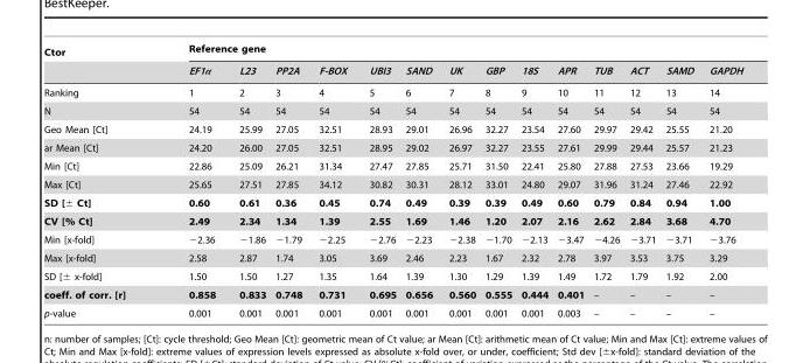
<table><thead><tr><td rowspan="2">Ctor</td><td colspan="14">Reference gene</td></tr><tr><td>EF1α</td><td>L23</td><td>PP2A</td><td>F-BOX</td><td>UBI3</td><td>SAND</td><td>UK</td><td>GBP</td><td>18S</td><td>APR</td><td>TUB</td><td>ACT</td><td>SAMD</td><td>GAPDH</td></tr></thead><tbody><tr><td>Ranking</td><td>1</td><td>2</td><td>3</td><td>4</td><td>5</td><td>6</td><td>7</td><td>8</td><td>9</td><td>10</td><td>11</td><td>12</td><td>13</td><td>14</td></tr><tr><td>N</td><td>54</td><td>54</td><td>54</td><td>54</td><td>54</td><td>54</td><td>54</td><td>54</td><td>54</td><td>54</td><td>54</td><td>54</td><td>54</td><td>54</td></tr><tr><td>Geo Mean [Ct]</td><td>24.19</td><td>25.99</td><td>27.05</td><td>32.51</td><td>28.93</td><td>29.01</td><td>26.96</td><td>32.27</td><td>23.54</td><td>27.60</td><td>29.97</td><td>29.42</td><td>25.55</td><td>21.20</td></tr><tr><td>ar Mean [Ct]</td><td>24.20</td><td>26.00</td><td>27.05</td><td>32.51</td><td>28.95</td><td>29.02</td><td>26.97</td><td>32.27</td><td>23.55</td><td>27.61</td><td>29.99</td><td>29.44</td><td>25.57</td><td>21.23</td></tr><tr><td>Min [Ct]</td><td>22.86</td><td>25.09</td><td>26.21</td><td>31.34</td><td>27.47</td><td>27.85</td><td>25.71</td><td>31.50</td><td>22.41</td><td>25.80</td><td>27.88</td><td>27.53</td><td>23.66</td><td>19.29</td></tr><tr><td>Max [Ct]</td><td>25.65</td><td>27.51</td><td>27.85</td><td>34.12</td><td>30.82</td><td>30.31</td><td>28.12</td><td>33.01</td><td>24.80</td><td>29.07</td><td>31.96</td><td>31.24</td><td>27.46</td><td>22.92</td></tr><tr><td>SD [± Ct]</td><td>0.60</td><td>0.61</td><td>0.36</td><td>0.45</td><td>0.74</td><td>0.49</td><td>0.39</td><td>0.39</td><td>0.49</td><td>0.60</td><td>0.79</td><td>0.84</td><td>0.94</td><td>1.00</td></tr><tr><td>CV [% Ct]</td><td>2.49</td><td>2.34</td><td>1.34</td><td>1.39</td><td>2.55</td><td>1.69</td><td>1.46</td><td>1.20</td><td>2.07</td><td>2.16</td><td>2.62</td><td>2.84</td><td>3.68</td><td>4.70</td></tr><tr><td>Min [x-fold]</td><td>−2.36</td><td>−1.86</td><td>−1.79</td><td>−2.25</td><td>−2.76</td><td>−2.23</td><td>−2.38</td><td>−1.70</td><td>−2.13</td><td>−3.47</td><td>−4.26</td><td>−3.71</td><td>−3.71</td><td>−3.76</td></tr><tr><td>Max [x-fold]</td><td>2.58</td><td>2.87</td><td>1.74</td><td>3.05</td><td>3.69</td><td>2.46</td><td>2.23</td><td>1.67</td><td>2.32</td><td>2.78</td><td>3.97</td><td>3.53</td><td>3.75</td><td>3.29</td></tr><tr><td>SD [± x-fold]</td><td>1.50</td><td>1.50</td><td>1.27</td><td>1.35</td><td>1.64</td><td>1.39</td><td>1.30</td><td>1.29</td><td>1.39</td><td>1.49</td><td>1.72</td><td>1.79</td><td>1.92</td><td>2.00</td></tr><tr><td>coeff. of corr. [r]</td><td>0.858</td><td>0.833</td><td>0.748</td><td>0.731</td><td>0.695</td><td>0.656</td><td>0.560</td><td>0.555</td><td>0.444</td><td>0.401</td><td>–</td><td>–</td><td>–</td><td>–</td></tr><tr><td>p-value</td><td>0.001</td><td>0.001</td><td>0.001</td><td>0.001</td><td>0.001</td><td>0.001</td><td>0.001</td><td>0.001</td><td>0.001</td><td>0.003</td><td>–</td><td>–</td><td>–</td><td>–</td></tr></tbody></table>